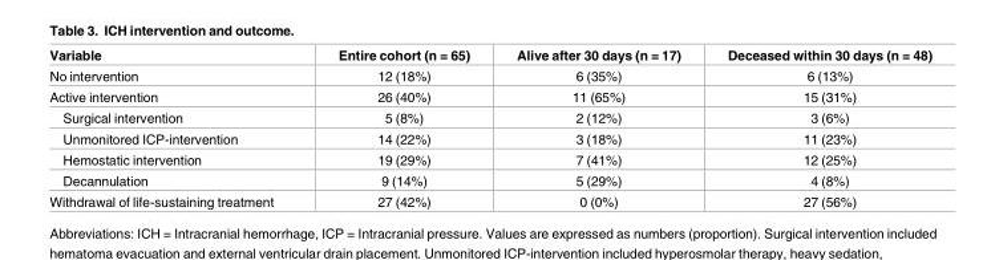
<table><thead><tr><td>Variable</td><td>Entire cohort (n = 65)</td><td>Alive after 30 days (n = 17)</td><td>Deceased within 30 days (n = 48)</td></tr></thead><tbody><tr><td>No intervention</td><td>12 (18%)</td><td>6 (35%)</td><td>6 (13%)</td></tr><tr><td>Active intervention</td><td>26 (40%)</td><td>11 (65%)</td><td>15 (31%)</td></tr><tr><td>Surgical intervention</td><td>5 (8%)</td><td>2 (12%)</td><td>3 (6%)</td></tr><tr><td>Unmonitored ICP-intervention</td><td>14 (22%)</td><td>3 (18%)</td><td>11 (23%)</td></tr><tr><td>Hemostatic intervention</td><td>19 (29%)</td><td>7 (41%)</td><td>12 (25%)</td></tr><tr><td>Decannulation</td><td>9 (14%)</td><td>5 (29%)</td><td>4 (8%)</td></tr><tr><td>Withdrawal of life-sustaining treatment</td><td>27 (42%)</td><td>0 (0%)</td><td>27 (56%)</td></tr></tbody></table>